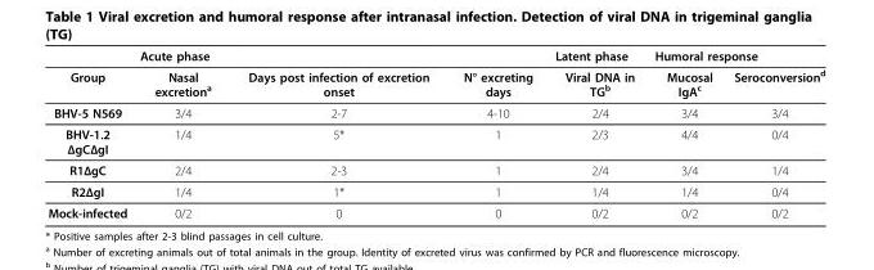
<table><thead><tr><td rowspan="2">Group</td><td colspan="2">Acute phase</td><td rowspan="2">N° excreting days</td><td rowspan="2">Latent phase Viral DNA in TG<sup>b</sup></td><td colspan="2">Humoral response</td></tr><tr><td>Nasal excretion<sup>a</sup></td><td>Days post infection of excretion onset</td><td>Mucosal IgA<sup>c</sup></td><td>Seroconversion<sup>d</sup></td></tr></thead><tbody><tr><td>BHV-5 N569</td><td>3/4</td><td>2-7</td><td>4-10</td><td>2/4</td><td>3/4</td><td>3/4</td></tr><tr><td>BHV-1.2 ΔgCΔgI</td><td>1/4</td><td>5*</td><td>1</td><td>2/3</td><td>4/4</td><td>0/4</td></tr><tr><td>R1ΔgC</td><td>2/4</td><td>2-3</td><td>1</td><td>2/4</td><td>3/4</td><td>1/4</td></tr><tr><td>R2ΔgI</td><td>1/4</td><td>1*</td><td>1</td><td>1/4</td><td>1/4</td><td>0/4</td></tr><tr><td>Mock-infected</td><td>0/2</td><td>0</td><td>0</td><td>0/2</td><td>0/2</td><td>0/2</td></tr></tbody></table>